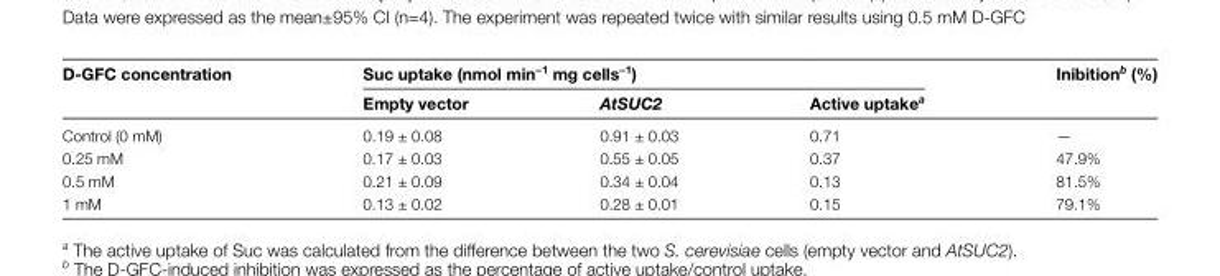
<table><thead><tr><td rowspan="2">D-GFC concentration</td><td colspan="3">Suc uptake (nmol min<sup>−1</sup> mg cells<sup>−1</sup>)</td><td rowspan="2">Inibition<sup>b</sup> (%)</td></tr><tr><td>Empty vector</td><td>AtSUC2</td><td>Active uptake<sup>a</sup></td></tr></thead><tbody><tr><td>Control (0 mM)</td><td>0.19 ± 0.08</td><td>0.91 ± 0.03</td><td>0.71</td><td>—</td></tr><tr><td>0.25 mM</td><td>0.17 ± 0.03</td><td>0.55 ± 0.05</td><td>0.37</td><td>47.9%</td></tr><tr><td>0.5 mM</td><td>0.21 ± 0.09</td><td>0.34 ± 0.04</td><td>0.13</td><td>81.5%</td></tr><tr><td>1 mM</td><td>0.13 ± 0.02</td><td>0.28 ± 0.01</td><td>0.15</td><td>79.1%</td></tr></tbody></table>